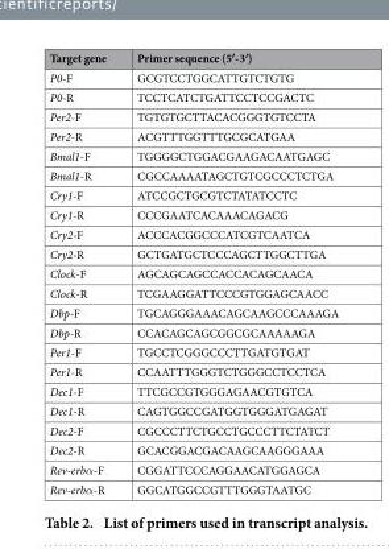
<table><thead><tr><td>Target gene</td><td>Primer sequence (5′-3′)</td></tr></thead><tbody><tr><td>P0-F</td><td>GCGTCCTGGCATTGTCTGTG</td></tr><tr><td>P0-R</td><td>TCCTCATCTGATTCCTCCGACTC</td></tr><tr><td>Per2-F</td><td>TGTGTGCTTACACGGGTGTCCTA</td></tr><tr><td>Per2-R</td><td>ACGTTTGGTTTGCGCATGAA</td></tr><tr><td>Bmal1-F</td><td>TGGGGCTGGACGAAGACAATGAGC</td></tr><tr><td>Bmal1-R</td><td>CGCCAAAATAGCTGTCGCCCTCTGA</td></tr><tr><td>Cry1-F</td><td>ATCCGCTGCGTCTATATCCTC</td></tr><tr><td>Cry1-R</td><td>CCCGAATCACAAACAGACG</td></tr><tr><td>Cry2-F</td><td>ACCCACGGCCCATCGTCAATCA</td></tr><tr><td>Cry2-R</td><td>GCTGATGCTCCCAGCTTGGCTTGA</td></tr><tr><td>Clock-F</td><td>AGCAGCAGCCACCACAGCAACA</td></tr><tr><td>Clock-R</td><td>TCGAAGGATTCCCGTGGAGCAACC</td></tr><tr><td>Dbp-F</td><td>TGCAGGGAAACAGCAAGCCCAAAGA</td></tr><tr><td>Dbp-R</td><td>CCACAGCAGCGGCGCAAAAAGA</td></tr><tr><td>Per1-F</td><td>TGCCTCGGGCCCTTGATGTGAT</td></tr><tr><td>Per1-R</td><td>CCAATTTGGGTCTGGGCCTCCTCA</td></tr><tr><td>Dec1-F</td><td>TTCGCCGTGGGAGAACGTGTCA</td></tr><tr><td>Dec1-R</td><td>CAGTGGCCGATGGTGGGATGAGAT</td></tr><tr><td>Dec2-F</td><td>CGCCCTTCTGCCTGCCCTTCTATCT</td></tr><tr><td>Dec2-R</td><td>GCACGGACGACAAGCAAGGGAAA</td></tr><tr><td>Rev-erbα-F</td><td>CGGATTCCCAGGAACATGGAGCA</td></tr><tr><td>Rev-erbα-R</td><td>GGCATGGCCGTTTGGGTAATGC</td></tr></tbody></table>